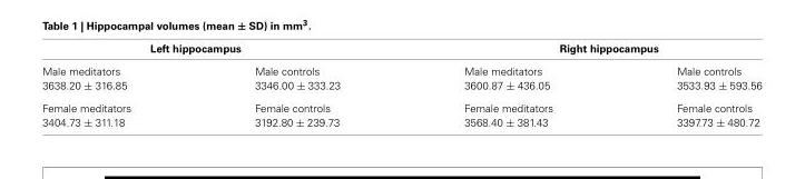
<table><thead><tr><td colspan="2">Left hippocampus</td><td colspan="2">Right hippocampus</td></tr><tr><td>Male meditators</td><td>Male controls</td><td>Male meditators</td><td>Male controls</td></tr></thead><tbody><tr><td>3638.20 ± 316.85</td><td>3346.00 ± 333.23</td><td>3600.87 ± 436.05</td><td>3533.93 ± 593.56</td></tr><tr><td>Female meditators</td><td>Female controls</td><td>Female meditators</td><td>Female controls</td></tr><tr><td>3404.73 ± 311.18</td><td>3192.80 ± 239.73</td><td>3568.40 ± 381.43</td><td>3397.73 ± 480.72</td></tr></tbody></table>